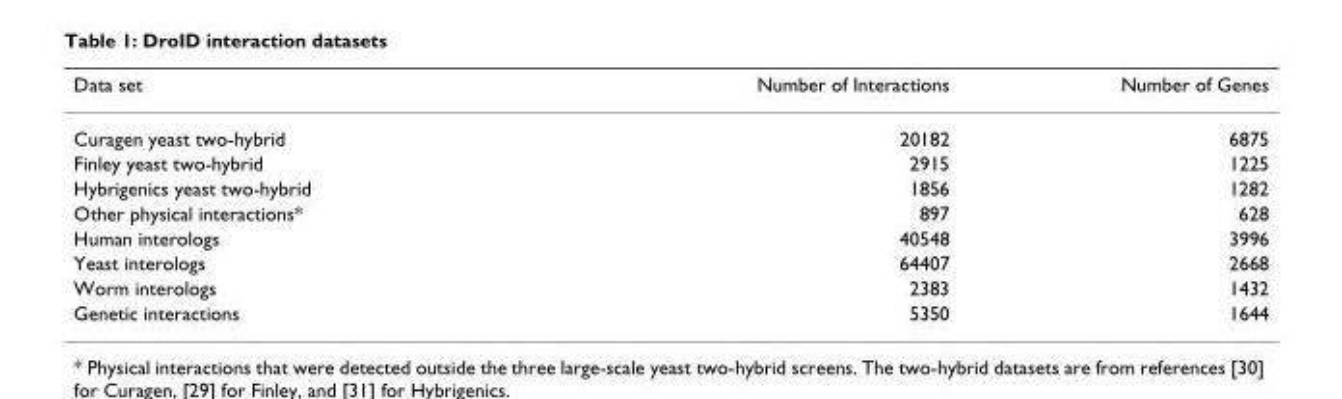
<table><thead><tr><td>Data set</td><td>Number of Interactions</td><td>Number of Genes</td></tr></thead><tbody><tr><td>Curagen yeast two-hybrid</td><td>20182</td><td>6875</td></tr><tr><td>Finley yeast two-hybrid</td><td>2915</td><td>1225</td></tr><tr><td>Hybrigenics yeast two-hybrid</td><td>1856</td><td>1282</td></tr><tr><td>Other physical interactions*</td><td>897</td><td>628</td></tr><tr><td>Human interologs</td><td>40548</td><td>3996</td></tr><tr><td>Yeast interologs</td><td>64407</td><td>2668</td></tr><tr><td>Worm interologs</td><td>2383</td><td>1432</td></tr><tr><td>Genetic interactions</td><td>5350</td><td>1644</td></tr></tbody></table>